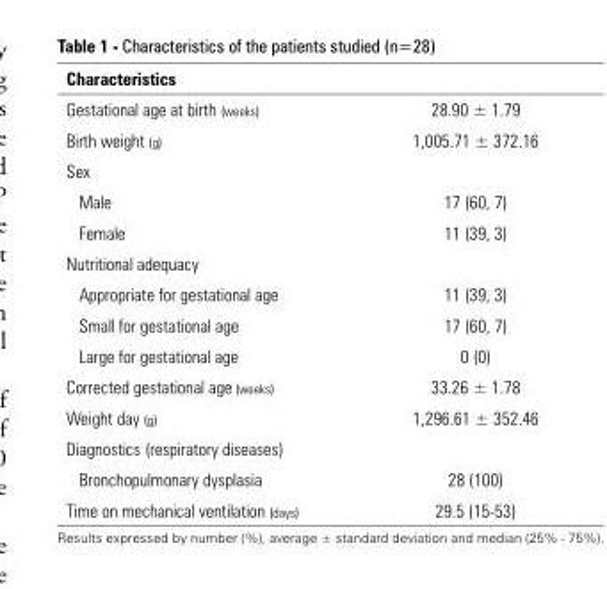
<table><thead><tr><td>Characteristics</td><td></td></tr></thead><tbody><tr><td>Gestational age at birth (weeks)</td><td>28.90 ± 1.79</td></tr><tr><td>Birth weight (g)</td><td>1,005.71 ± 372.16</td></tr><tr><td colspan="2">Sex</td></tr><tr><td>Male</td><td>17 (60, 7)</td></tr><tr><td>Female</td><td>11 (39, 3)</td></tr><tr><td colspan="2">Nutritional adequacy</td></tr><tr><td>Appropriate for gestational age</td><td>11 (39, 3)</td></tr><tr><td>Small for gestational age</td><td>17 (60, 7)</td></tr><tr><td>Large for gestational age</td><td>0 (0)</td></tr><tr><td>Corrected gestational age (weeks)</td><td>33.26 ± 1.78</td></tr><tr><td>Weight day (g)</td><td>1,296.61 ± 352.46</td></tr><tr><td colspan="2">Diagnostics (respiratory diseases)</td></tr><tr><td>Bronchopulmonary dysplasia</td><td>28 (100)</td></tr><tr><td>Time on mechanical ventilation (days)</td><td>29.5 (15-53)</td></tr></tbody></table>